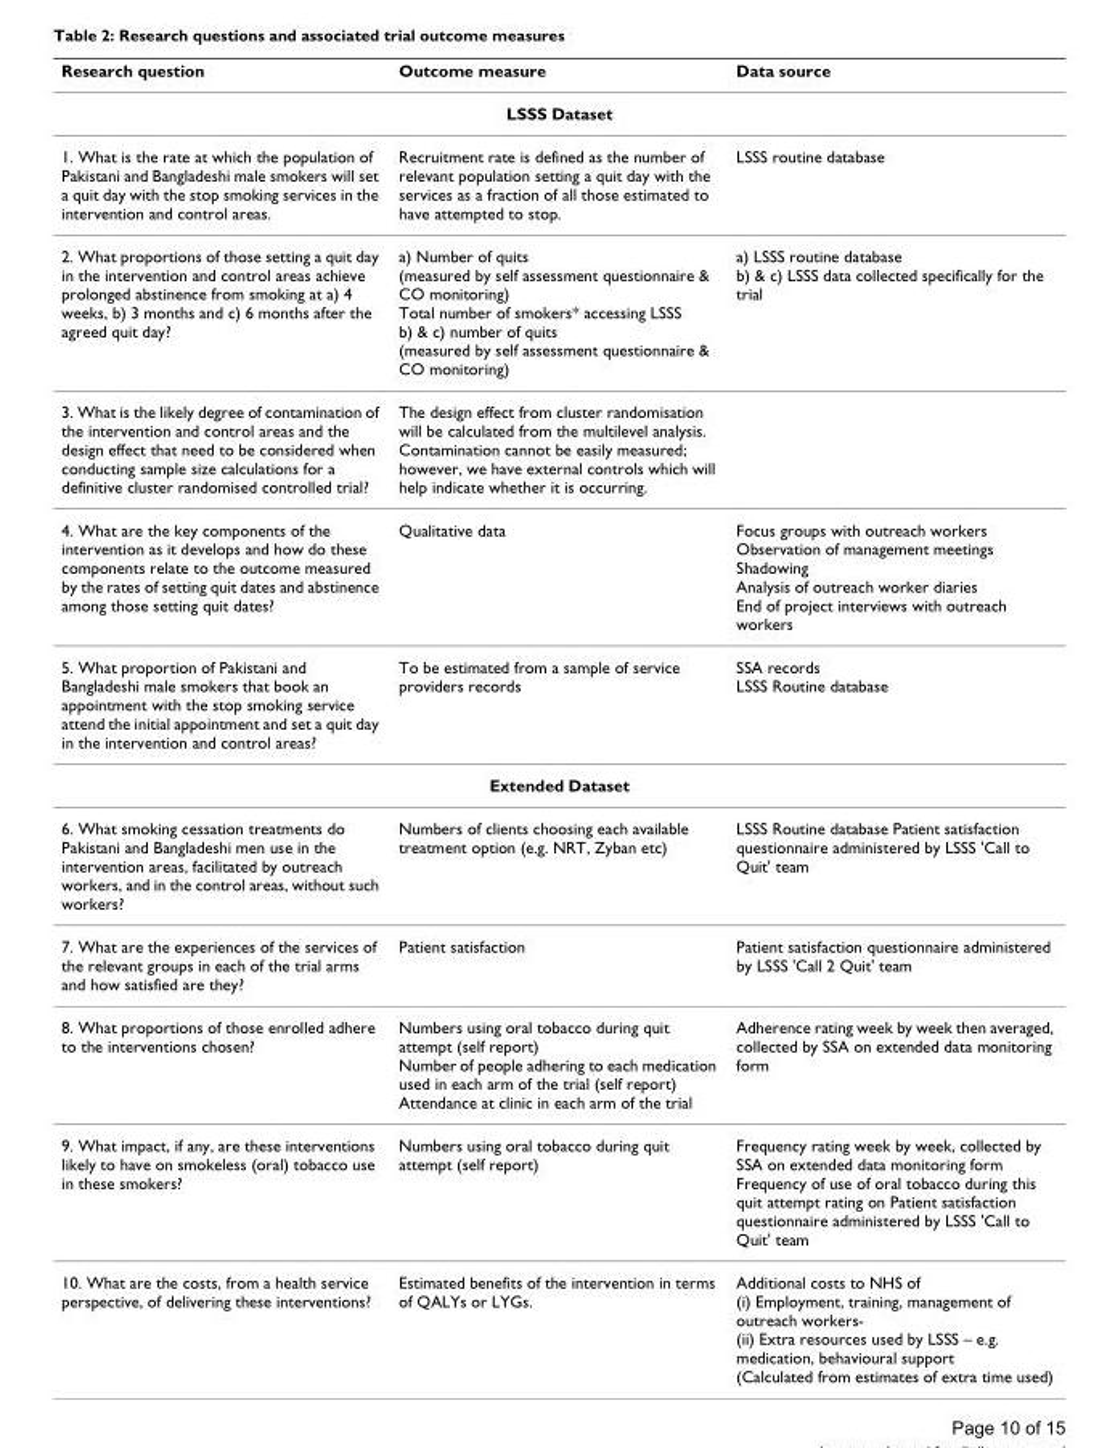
<table><thead><tr><td>Research question</td><td>Outcome measure</td><td>Data source</td></tr></thead><tbody><tr><td colspan="3">LSSS Dataset</td></tr><tr><td>1. What is the rate at which the population of Pakistani and Bangladeshi male smokers will set a quit day with the stop smoking services in the intervention and control areas.</td><td>Recruitment rate is defined as the number of relevant population setting a quit day with the services as a fraction of all those estimated to have attempted to stop.</td><td>LSSS routine database</td></tr><tr><td>2. What proportions of those setting a quit day in the intervention and control areas achieve prolonged abstinence from smoking at a) 4 weeks, b) 3 months and c) 6 months after the agreed quit day?</td><td>a) Number of quits (measured by self assessment questionnaire &amp; CO monitoring) Total number of smokers* accessing LSSS b) &amp; c) number of quits (measured by self assessment questionnaire &amp; CO monitoring)</td><td>a) LSSS routine database b) &amp; c) LSSS data collected specifically for the trial</td></tr><tr><td>3. What is the likely degree of contamination of the intervention and control areas and the design effect that need to be considered when conducting sample size calculations for a definitive cluster randomised controlled trial?</td><td>The design effect from cluster randomisation will be calculated from the multilevel analysis. Contamination cannot be easily measured; however, we have external controls which will help indicate whether it is occurring.</td><td></td></tr><tr><td>4. What are the key components of the intervention as it develops and how do these components relate to the outcome measured by the rates of setting quit dates and abstinence among those setting quit dates?</td><td>Qualitative data</td><td>Focus groups with outreach workers Observation of management meetings Shadowing Analysis of outreach worker diaries End of project interviews with outreach workers</td></tr><tr><td>5. What proportion of Pakistani and Bangladeshi male smokers that book an appointment with the stop smoking service attend the initial appointment and set a quit day in the intervention and control areas?</td><td>To be estimated from a sample of service providers records</td><td>SSA records LSSS Routine database</td></tr><tr><td colspan="3">Extended Dataset</td></tr><tr><td>6. What smoking cessation treatments do Pakistani and Bangladeshi men use in the intervention areas, facilitated by outreach workers, and in the control areas, without such workers?</td><td>Numbers of clients choosing each available treatment option (e.g. NRT, Zyban etc)</td><td>LSSS Routine database Patient satisfaction questionnaire administered by LSSS &#x27;Call to Quit&#x27; team</td></tr><tr><td>7. What are the experiences of the services of the relevant groups in each of the trial arms and how satisfied are they?</td><td>Patient satisfaction</td><td>Patient satisfaction questionnaire administered by LSSS &#x27;Call 2 Quit&#x27; team</td></tr><tr><td>8. What proportions of those enrolled adhere to the interventions chosen?</td><td>Numbers using oral tobacco during quit attempt (self report) Number of people adhering to each medication used in each arm of the trial (self report) Attendance at clinic in each arm of the trial</td><td>Adherence rating week by week then averaged, collected by SSA on extended data monitoring form</td></tr><tr><td>9. What impact, if any, are these interventions likely to have on smokeless (oral) tobacco use in these smokers?</td><td>Numbers using oral tobacco during quit attempt (self report)</td><td>Frequency rating week by week, collected by SSA on extended data monitoring form Frequency of use of oral tobacco during this quit attempt rating on Patient satisfaction questionnaire administered by LSSS &#x27;Call to Quit&#x27; team</td></tr><tr><td>10. What are the costs, from a health service perspective, of delivering these interventions?</td><td>Estimated benefits of the intervention in terms of QALYs or LYGs.</td><td>Additional costs to NHS of (i) Employment, training, management of outreach workers- (ii) Extra resources used by LSSS – e.g. medication, behavioural support (Calculated from estimates of extra time used)</td></tr></tbody></table>